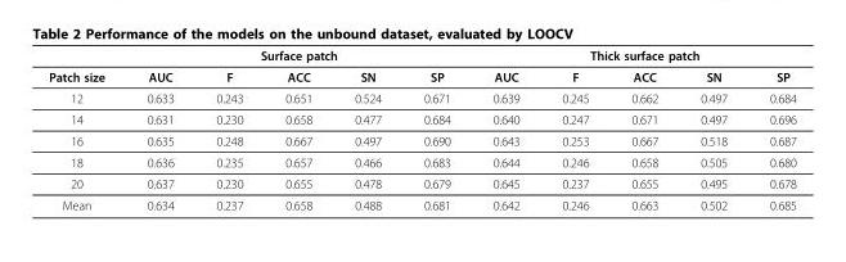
<table><thead><tr><td rowspan="2">Patch size</td><td colspan="5">Surface patch</td><td colspan="5">Thick surface patch</td></tr><tr><td>AUC</td><td>F</td><td>ACC</td><td>SN</td><td>SP</td><td>AUC</td><td>F</td><td>ACC</td><td>SN</td><td>SP</td></tr></thead><tbody><tr><td>12</td><td>0.633</td><td>0.243</td><td>0.651</td><td>0.524</td><td>0.671</td><td>0.639</td><td>0.245</td><td>0.662</td><td>0.497</td><td>0.684</td></tr><tr><td>14</td><td>0.631</td><td>0.230</td><td>0.658</td><td>0.477</td><td>0.684</td><td>0.640</td><td>0.247</td><td>0.671</td><td>0.497</td><td>0.696</td></tr><tr><td>16</td><td>0.635</td><td>0.248</td><td>0.667</td><td>0.497</td><td>0.690</td><td>0.643</td><td>0.253</td><td>0.667</td><td>0.518</td><td>0.687</td></tr><tr><td>18</td><td>0.636</td><td>0.235</td><td>0.657</td><td>0.466</td><td>0.683</td><td>0.644</td><td>0.246</td><td>0.658</td><td>0.505</td><td>0.680</td></tr><tr><td>20</td><td>0.637</td><td>0.230</td><td>0.655</td><td>0.478</td><td>0.679</td><td>0.645</td><td>0.237</td><td>0.655</td><td>0.495</td><td>0.678</td></tr><tr><td>Mean</td><td>0.634</td><td>0.237</td><td>0.658</td><td>0.488</td><td>0.681</td><td>0.642</td><td>0.246</td><td>0.663</td><td>0.502</td><td>0.685</td></tr></tbody></table>